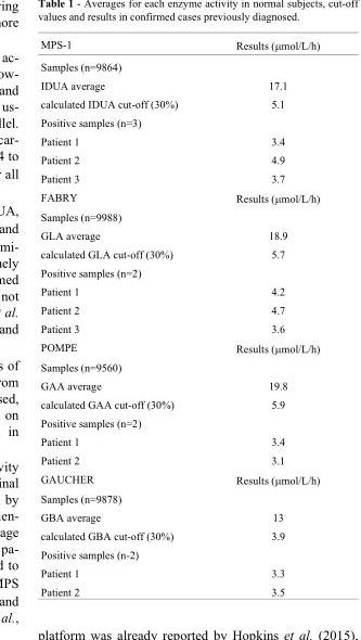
<table><thead><tr><td>MPS-1</td><td>Results (μmol/L/h)</td></tr></thead><tbody><tr><td colspan="2">Samples (n=9864)</td></tr><tr><td>IDUA average</td><td>17.1</td></tr><tr><td>calculated IDUA cut-off (30%)</td><td>5.1</td></tr><tr><td colspan="2">Positive samples (n=3)</td></tr><tr><td>Patient 1</td><td>3.4</td></tr><tr><td>Patient 2</td><td>4.9</td></tr><tr><td>Patient 3</td><td>3.7</td></tr><tr><td>FABRY</td><td>Results (μmol/L/h)</td></tr><tr><td colspan="2">Samples (n=9988)</td></tr><tr><td>GLA average</td><td>18.9</td></tr><tr><td>calculated GLA cut-off (30%)</td><td>5.7</td></tr><tr><td colspan="2">Positive samples (n=2)</td></tr><tr><td>Patient 1</td><td>4.2</td></tr><tr><td>Patient 2</td><td>4.7</td></tr><tr><td>Patient 3</td><td>3.6</td></tr><tr><td>POMPE</td><td>Results (μmol/L/h)</td></tr><tr><td colspan="2">Samples (n=9560)</td></tr><tr><td>GAA average</td><td>19.8</td></tr><tr><td>calculated GAA cut-off (30%)</td><td>5.9</td></tr><tr><td colspan="2">Positive samples (n=2)</td></tr><tr><td>Patient 1</td><td>3.4</td></tr><tr><td>Patient 2</td><td>3.1</td></tr><tr><td>GAUCHER</td><td>Results (μmol/L/h)</td></tr><tr><td colspan="2">Samples (n=9878)</td></tr><tr><td>GBA average</td><td>13</td></tr><tr><td>calculated GBA cut-off (30%)</td><td>3.9</td></tr><tr><td colspan="2">Positive samples (n-2)</td></tr><tr><td>Patient 1</td><td>3.3</td></tr><tr><td>Patient 2</td><td>3.5</td></tr></tbody></table>